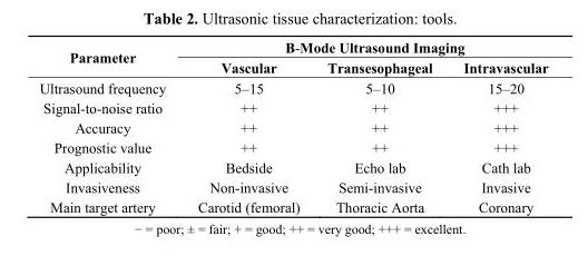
<table><thead><tr><td rowspan="2">Parameter</td><td colspan="3">B-Mode Ultrasound Imaging</td></tr><tr><td>Vascular</td><td>Transesophageal</td><td>Intravascular</td></tr></thead><tbody><tr><td>Ultrasound frequency</td><td>5–15</td><td>5–10</td><td>15–20</td></tr><tr><td>Signal-to-noise ratio</td><td>++</td><td>++</td><td>+++</td></tr><tr><td>Accuracy</td><td>++</td><td>++</td><td>+++</td></tr><tr><td>Prognostic value</td><td>++</td><td>++</td><td>+++</td></tr><tr><td>Applicability</td><td>Bedside</td><td>Echo lab</td><td>Cath lab</td></tr><tr><td>Invasiveness</td><td>Non-invasive</td><td>Semi-invasive</td><td>Invasive</td></tr><tr><td>Main target artery</td><td>Carotid (femoral)</td><td>Thoracic Aorta</td><td>Coronary</td></tr></tbody></table>